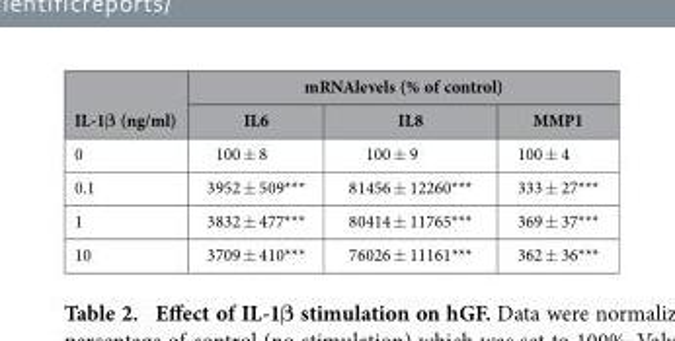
<table><thead><tr><td rowspan="2">IL-1β (ng/ml)</td><td colspan="3">mRNAlevels (% of control)</td></tr><tr><td>IL6</td><td>IL8</td><td>MMP1</td></tr></thead><tbody><tr><td>0</td><td>100 ± 8</td><td>100 ± 9</td><td>100 ± 4</td></tr><tr><td>0.1</td><td>3952 ± 509***</td><td>81456 ± 12260***</td><td>333 ± 27***</td></tr><tr><td>1</td><td>3832 ± 477***</td><td>80414 ± 11765***</td><td>369 ± 37***</td></tr><tr><td>10</td><td>3709 ± 410***</td><td>76026 ± 11161***</td><td>362 ± 36***</td></tr></tbody></table>